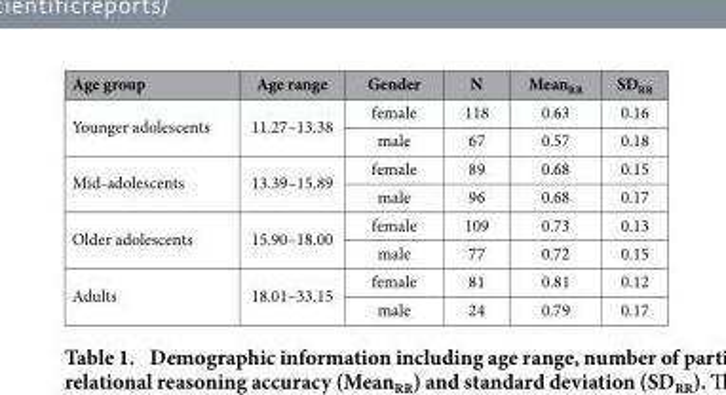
<table><thead><tr><td>Age group</td><td>Age range</td><td>Gender</td><td>N</td><td>Mean<sub>RR</sub></td><td>SD<sub>RR</sub></td></tr></thead><tbody><tr><td rowspan="2">Younger adolescents</td><td rowspan="2">11.27–13.38</td><td>female</td><td>118</td><td>0.63</td><td>0.16</td></tr><tr><td>male</td><td>67</td><td>0.57</td><td>0.18</td></tr><tr><td rowspan="2">Mid-adolescents</td><td rowspan="2">13.39–15.89</td><td>female</td><td>89</td><td>0.68</td><td>0.15</td></tr><tr><td>male</td><td>96</td><td>0.68</td><td>0.17</td></tr><tr><td rowspan="2">Older adolescents</td><td rowspan="2">15.90–18.00</td><td>female</td><td>109</td><td>0.73</td><td>0.13</td></tr><tr><td>male</td><td>77</td><td>0.72</td><td>0.15</td></tr><tr><td rowspan="2">Adults</td><td rowspan="2">18.01–33.15</td><td>female</td><td>81</td><td>0.81</td><td>0.12</td></tr><tr><td>male</td><td>24</td><td>0.79</td><td>0.17</td></tr></tbody></table>